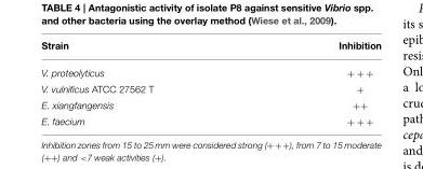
<table><thead><tr><td>Strain</td><td>Inhibition</td></tr></thead><tbody><tr><td>V. proteolyticus</td><td>+ + +</td></tr><tr><td>V. vulnificus ATCC 27562 T</td><td>+</td></tr><tr><td>E. xiangfangensis</td><td>++</td></tr><tr><td>E. faecium</td><td>+ + +</td></tr></tbody></table>